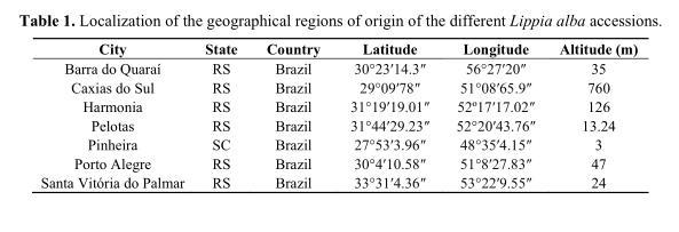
<table><thead><tr><td>City</td><td>State</td><td>Country</td><td>Latitude</td><td>Longitude</td><td>Altitude (m)</td></tr></thead><tbody><tr><td>Barra do Quaraí</td><td>RS</td><td>Brazil</td><td>30°23′14.3″</td><td>56°27′20″</td><td>35</td></tr><tr><td>Caxias do Sul</td><td>RS</td><td>Brazil</td><td>29°09′78″</td><td>51°08′65.9″</td><td>760</td></tr><tr><td>Harmonia</td><td>RS</td><td>Brazil</td><td>31°19′19.01″</td><td>52º17′17.02″</td><td>126</td></tr><tr><td>Pelotas</td><td>RS</td><td>Brazil</td><td>31°44′29.23″</td><td>52°20′43.76″</td><td>13.24</td></tr><tr><td>Pinheira</td><td>SC</td><td>Brazil</td><td>27°53′3.96″</td><td>48°35′4.15″</td><td>3</td></tr><tr><td>Porto Alegre</td><td>RS</td><td>Brazil</td><td>30°4′10.58″</td><td>51°8′27.83″</td><td>47</td></tr><tr><td>Santa Vitória do Palmar</td><td>RS</td><td>Brazil</td><td>33°31′4.36″</td><td>53°22′9.55″</td><td>24</td></tr></tbody></table>